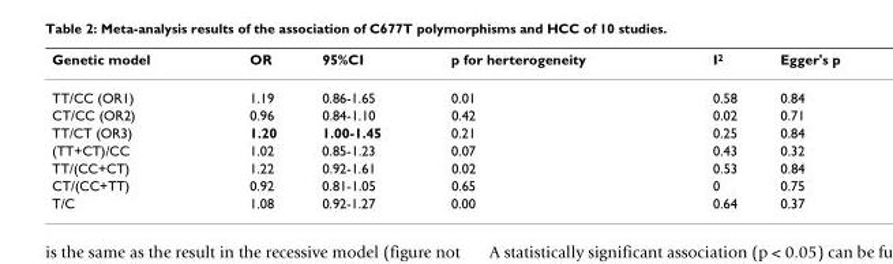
<table><thead><tr><td>Genetic model</td><td>OR</td><td>95%CI</td><td>p for herterogeneity</td><td>I<sup>2</sup></td><td>Egger&#x27;s p</td></tr></thead><tbody><tr><td>TT/CC (OR1)</td><td>1.19</td><td>0.86-1.65</td><td>0.01</td><td>0.58</td><td>0.84</td></tr><tr><td>CT/CC (OR2)</td><td>0.96</td><td>0.84-1.10</td><td>0.42</td><td>0.02</td><td>0.71</td></tr><tr><td>TT/CT (OR3)</td><td>1.20</td><td>1.00-1.45</td><td>0.21</td><td>0.25</td><td>0.84</td></tr><tr><td>(TT+CT)/CC</td><td>1.02</td><td>0.85-1.23</td><td>0.07</td><td>0.43</td><td>0.32</td></tr><tr><td>TT/(CC+CT)</td><td>1.22</td><td>0.92-1.61</td><td>0.02</td><td>0.53</td><td>0.84</td></tr><tr><td>CT/(CC+TT)</td><td>0.92</td><td>0.81-1.05</td><td>0.65</td><td>0</td><td>0.75</td></tr><tr><td>T/C</td><td>1.08</td><td>0.92-1.27</td><td>0.00</td><td>0.64</td><td>0.37</td></tr></tbody></table>